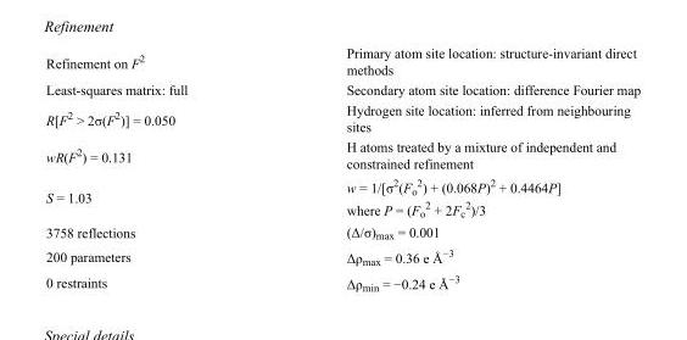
<table><tbody><tr><td>Refinement on F<sup>2</sup></td><td>Primary atom site location: structure-invariant direct methods</td></tr><tr><td>Least-squares matrix: full</td><td>Secondary atom site location: difference Fourier map</td></tr><tr><td>R[F<sup>2</sup> &gt; 2σ(F<sup>2</sup>)] = 0.050</td><td>Hydrogen site location: inferred from neighbouring sites</td></tr><tr><td>wR(F<sup>2</sup>) = 0.131</td><td>H atoms treated by a mixture of independent and constrained refinement</td></tr><tr><td>S = 1.03</td><td>w = 1/[σ<sup>2</sup>(F<sub>o</sub> <sup>2</sup>) + (0.068P)<sup>2</sup> + 0.4464P] where P = (F<sub>o</sub> <sup>2</sup> + 2F<sub>c</sub> <sup>2</sup>)/3</td></tr><tr><td>3758 reflections</td><td>(Δ/σ)<sub>max</sub> = 0.001</td></tr><tr><td>200 parameters</td><td>Δρ<sub>max</sub> = 0.36 e Å<sup>−3</sup></td></tr><tr><td>0 restraints</td><td>Δρ<sub>min</sub> = −0.24 e Å<sup>−3</sup></td></tr></tbody></table>